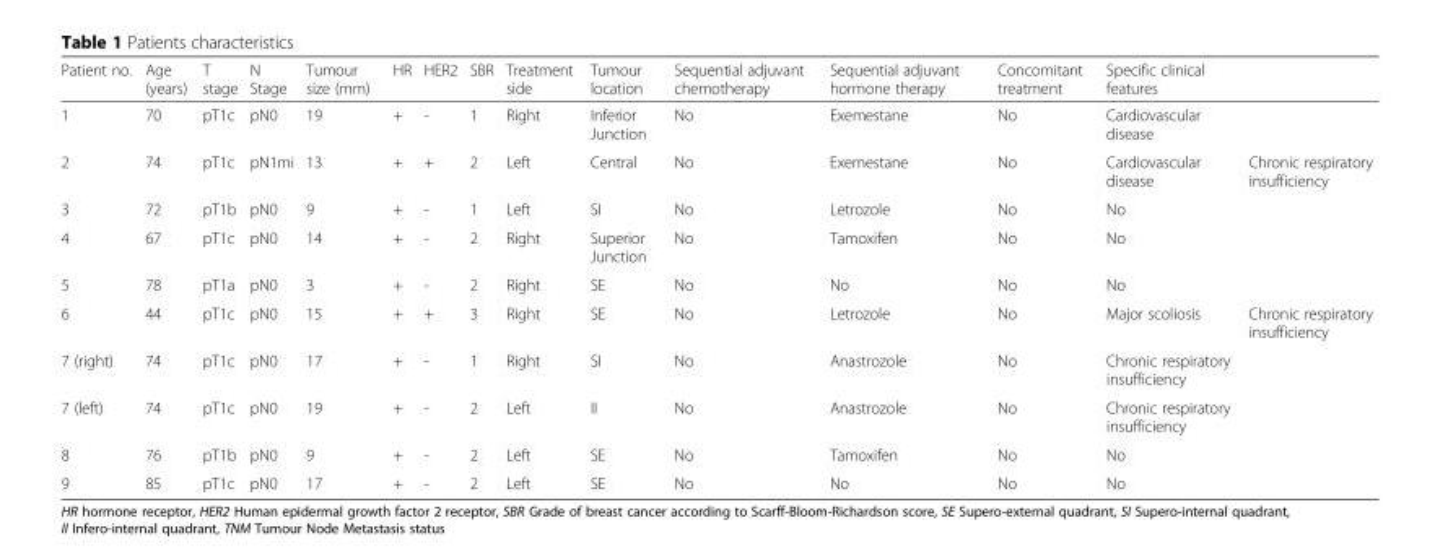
<table><thead><tr><td rowspan="2">Patient no. 1</td><td rowspan="2">Age (years) 70</td><td rowspan="2">T stage pT1c</td><td rowspan="2">N Stage pN0</td><td rowspan="2">Tumour size (mm) 19</td><td rowspan="2">HR +</td><td rowspan="2">HER2 -</td><td rowspan="2">SBR 1</td><td rowspan="2">Treatment side Right</td><td rowspan="2">Tumour location Inferior Junction</td><td rowspan="2">Sequential adjuvant chemotherapy No</td><td rowspan="2">Sequential adjuvant hormone therapy Exemestane</td><td rowspan="2">Concomitant treatment No</td><td colspan="2">Specific clinical features</td></tr><tr><td>Cardiovascular disease</td><td></td></tr></thead><tbody><tr><td>2</td><td>74</td><td>pT1c</td><td>pN1mi</td><td>13</td><td>+</td><td>+</td><td>2</td><td>Left</td><td>Central</td><td>No</td><td>Exemestane</td><td>No</td><td>Cardiovascular disease</td><td>Chronic respiratory insufficiency</td></tr><tr><td>3</td><td>72</td><td>pT1b</td><td>pN0</td><td>9</td><td>+</td><td>-</td><td>1</td><td>Left</td><td>SI</td><td>No</td><td>Letrozole</td><td>No</td><td>No</td><td></td></tr><tr><td>4</td><td>67</td><td>pT1c</td><td>pN0</td><td>14</td><td>+</td><td>-</td><td>2</td><td>Right</td><td>Superior Junction</td><td>No</td><td>Tamoxifen</td><td>No</td><td>No</td><td></td></tr><tr><td>5</td><td>78</td><td>pT1a</td><td>pN0</td><td>3</td><td>+</td><td>-</td><td>2</td><td>Right</td><td>SE</td><td>No</td><td>No</td><td>No</td><td>No</td><td></td></tr><tr><td>6</td><td>44</td><td>pT1c</td><td>pN0</td><td>15</td><td>+</td><td>+</td><td>3</td><td>Right</td><td>SE</td><td>No</td><td>Letrozole</td><td>No</td><td>Major scoliosis</td><td>Chronic respiratory insufficiency</td></tr><tr><td>7 (right)</td><td>74</td><td>pT1c</td><td>pN0</td><td>17</td><td>+</td><td>-</td><td>1</td><td>Right</td><td>SI</td><td>No</td><td>Anastrozole</td><td>No</td><td>Chronic respiratory insufficiency</td><td></td></tr><tr><td>7 (left)</td><td>74</td><td>pT1c</td><td>pN0</td><td>19</td><td>+</td><td>-</td><td>2</td><td>Left</td><td>II</td><td>No</td><td>Anastrozole</td><td>No</td><td>Chronic respiratory insufficiency</td><td></td></tr><tr><td>8</td><td>76</td><td>pT1b</td><td>pN0</td><td>9</td><td>+</td><td>-</td><td>2</td><td>Left</td><td>SE</td><td>No</td><td>Tamoxifen</td><td>No</td><td>No</td><td></td></tr><tr><td>9</td><td>85</td><td>pT1c</td><td>pN0</td><td>17</td><td>+</td><td>-</td><td>2</td><td>Left</td><td>SE</td><td>No</td><td>No</td><td>No</td><td>No</td><td></td></tr></tbody></table>